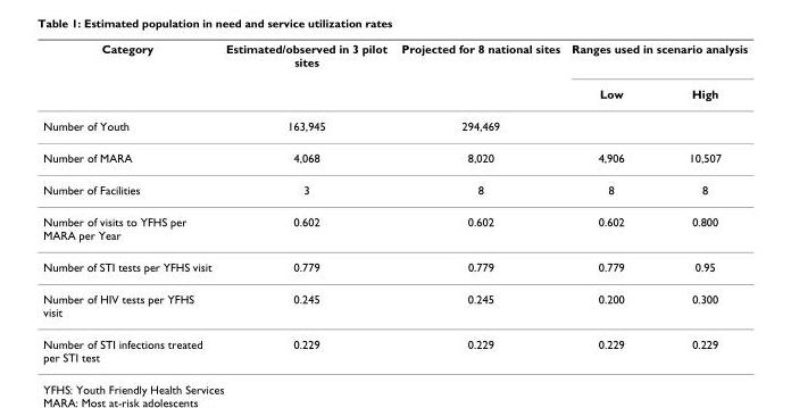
<table><thead><tr><td rowspan="2">Category</td><td rowspan="2">Estimated/observed in 3 pilot sites</td><td rowspan="2">Projected for 8 national sites</td><td colspan="2">Ranges used in scenario analysis</td></tr><tr><td>Low</td><td>High</td></tr></thead><tbody><tr><td>Number of Youth</td><td>163,945</td><td>294,469</td><td></td><td></td></tr><tr><td>Number of MARA</td><td>4,068</td><td>8,020</td><td>4,906</td><td>10,507</td></tr><tr><td>Number of Facilities</td><td>3</td><td>8</td><td>8</td><td>8</td></tr><tr><td>Number of visits to YFHS per MARA per Year</td><td>0.602</td><td>0.602</td><td>0.602</td><td>0.800</td></tr><tr><td>Number of STI tests per YFHS visit</td><td>0.779</td><td>0.779</td><td>0.779</td><td>0.95</td></tr><tr><td>Number of HIV tests per YFHS visit</td><td>0.245</td><td>0.245</td><td>0.200</td><td>0.300</td></tr><tr><td>Number of STI infections treated per STI test</td><td>0.229</td><td>0.229</td><td>0.229</td><td>0.229</td></tr></tbody></table>